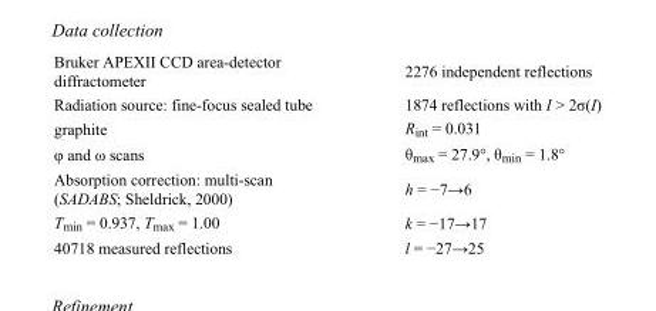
<table><tbody><tr><td>Bruker APEXII CCD area-detector diffractometer</td><td>2276 independent reflections</td></tr><tr><td>Radiation source: fine-focus sealed tube</td><td>1874 reflections with I &gt; 2σ(I)</td></tr><tr><td>graphite</td><td>R<sub>int</sub> = 0.031</td></tr><tr><td>φ and ω scans</td><td>θ<sub>max</sub> = 27.9°, θ<sub>min</sub> = 1.8°</td></tr><tr><td>Absorption correction: multi-scan (SADABS; Sheldrick, 2000)</td><td>h = −7→6</td></tr><tr><td>T<sub>min</sub> = 0.937, T<sub>max</sub> = 1.00</td><td>k = −17→17</td></tr><tr><td>40718 measured reflections</td><td>l = −27→25</td></tr></tbody></table>